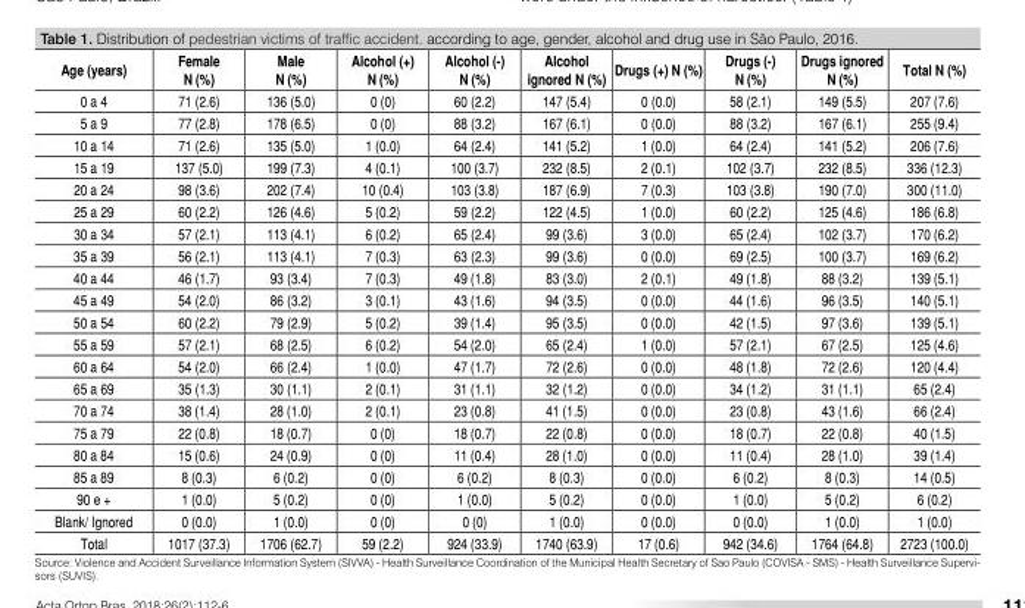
<table><thead><tr><td>Age (years)</td><td>Female N (%)</td><td>Male N (%)</td><td>Alcohol (+) N (%)</td><td>Alcohol (-) N (%)</td><td>Alcohol ignored N (%)</td><td>Drugs (+) N (%)</td><td>Drugs (-) N (%)</td><td>Drugs ignored N (%)</td><td>Total N (%)</td></tr></thead><tbody><tr><td>0 a 4</td><td>71 (2.6)</td><td>136 (5.0)</td><td>0 (0)</td><td>60 (2.2)</td><td>147 (5.4)</td><td>0 (0.0)</td><td>58 (2.1)</td><td>149 (5.5)</td><td>207 (7.6)</td></tr><tr><td>5 a 9</td><td>77 (2.8)</td><td>178 (6.5)</td><td>0 (0)</td><td>88 (3.2)</td><td>167 (6.1)</td><td>0 (0.0)</td><td>88 (3.2)</td><td>167 (6.1)</td><td>255 (9.4)</td></tr><tr><td>10 a 14</td><td>71 (2.6)</td><td>135 (5.0)</td><td>1 (0.0)</td><td>64 (2.4)</td><td>141 (5.2)</td><td>1 (0.0)</td><td>64 (2.4)</td><td>141 (5.2)</td><td>206 (7.6)</td></tr><tr><td>15 a 19</td><td>137 (5.0)</td><td>199 (7.3)</td><td>4 (0.1)</td><td>100 (3.7)</td><td>232 (8.5)</td><td>2 (0.1)</td><td>102 (3.7)</td><td>232 (8.5)</td><td>336 (12.3)</td></tr><tr><td>20 a 24</td><td>98 (3.6)</td><td>202 (7.4)</td><td>10 (0.4)</td><td>103 (3.8)</td><td>187 (6.9)</td><td>7 (0.3)</td><td>103 (3.8)</td><td>190 (7.0)</td><td>300 (11.0)</td></tr><tr><td>25 a 29</td><td>60 (2.2)</td><td>126 (4.6)</td><td>5 (0.2)</td><td>59 (2.2)</td><td>122 (4.5)</td><td>1 (0.0)</td><td>60 (2.2)</td><td>125 (4.6)</td><td>186 (6.8)</td></tr><tr><td>30 a 34</td><td>57 (2.1)</td><td>113 (4.1)</td><td>6 (0.2)</td><td>65 (2.4)</td><td>99 (3.6)</td><td>3 (0.0)</td><td>65 (2.4)</td><td>102 (3.7)</td><td>170 (6.2)</td></tr><tr><td>35 a 39</td><td>56 (2.1)</td><td>113 (4.1)</td><td>7 (0.3)</td><td>63 (2.3)</td><td>99 (3.6)</td><td>0 (0.0)</td><td>69 (2.5)</td><td>100 (3.7)</td><td>169 (6.2)</td></tr><tr><td>40 a 44</td><td>46 (1.7)</td><td>93 (3.4)</td><td>7 (0.3)</td><td>49 (1.8)</td><td>83 (3.0)</td><td>2 (0.1)</td><td>49 (1.8)</td><td>88 (3.2)</td><td>139 (5.1)</td></tr><tr><td>45 a 49</td><td>54 (2.0)</td><td>86 (3.2)</td><td>3 (0.1)</td><td>43 (1.6)</td><td>94 (3.5)</td><td>0 (0.0)</td><td>44 (1.6)</td><td>96 (3.5)</td><td>140 (5.1)</td></tr><tr><td>50 a 54</td><td>60 (2.2)</td><td>79 (2.9)</td><td>5 (0.2)</td><td>39 (1.4)</td><td>95 (3.5)</td><td>0 (0.0)</td><td>42 (1.5)</td><td>97 (3.6)</td><td>139 (5.1)</td></tr><tr><td>55 a 59</td><td>57 (2.1)</td><td>68 (2.5)</td><td>6 (0.2)</td><td>54 (2.0)</td><td>65 (2.4)</td><td>1 (0.0)</td><td>57 (2.1)</td><td>67 (2.5)</td><td>125 (4.6)</td></tr><tr><td>60 a 64</td><td>54 (2.0)</td><td>66 (2.4)</td><td>1 (0.0)</td><td>47 (1.7)</td><td>72 (2.6)</td><td>0 (0.0)</td><td>48 (1.8)</td><td>72 (2.6)</td><td>120 (4.4)</td></tr><tr><td>65 a 69</td><td>35 (1.3)</td><td>30 (1.1)</td><td>2 (0.1)</td><td>31 (1.1)</td><td>32 (1.2)</td><td>0 (0.0)</td><td>34 (1.2)</td><td>31 (1.1)</td><td>65 (2.4)</td></tr><tr><td>70 a 74</td><td>38 (1.4)</td><td>28 (1.0)</td><td>2 (0.1)</td><td>23 (0.8)</td><td>41 (1.5)</td><td>0 (0.0)</td><td>23 (0.8)</td><td>43 (1.6)</td><td>66 (2.4)</td></tr><tr><td>75 a 79</td><td>22 (0.8)</td><td>18 (0.7)</td><td>0 (0)</td><td>18 (0.7)</td><td>22 (0.8)</td><td>0 (0.0)</td><td>18 (0.7)</td><td>22 (0.8)</td><td>40 (1.5)</td></tr><tr><td>80 a 84</td><td>15 (0.6)</td><td>24 (0.9)</td><td>0 (0)</td><td>11 (0.4)</td><td>28 (1.0)</td><td>0 (0.0)</td><td>11 (0.4)</td><td>28 (1.0)</td><td>39 (1.4)</td></tr><tr><td>85 a 89</td><td>8 (0.3)</td><td>6 (0.2)</td><td>0 (0)</td><td>6 (0.2)</td><td>8 (0.3)</td><td>0 (0.0)</td><td>6 (0.2)</td><td>8 (0.3)</td><td>14 (0.5)</td></tr><tr><td>90 e +</td><td>1 (0.0)</td><td>5 (0.2)</td><td>0 (0)</td><td>1 (0.0)</td><td>5 (0.2)</td><td>0 (0.0)</td><td>1 (0.0)</td><td>5 (0.2)</td><td>6 (0.2)</td></tr><tr><td>Blank/ Ignored</td><td>0 (0.0)</td><td>1 (0.0)</td><td>0 (0)</td><td>0 (0)</td><td>1 (0.0)</td><td>0 (0.0)</td><td>0 (0.0)</td><td>1 (0.0)</td><td>1 (0.0)</td></tr><tr><td>Total</td><td>1017 (37.3)</td><td>1706 (62.7)</td><td>59 (2.2)</td><td>924 (33.9)</td><td>1740 (63.9)</td><td>17 (0.6)</td><td>942 (34.6)</td><td>1764 (64.8)</td><td>2723 (100.0)</td></tr></tbody></table>